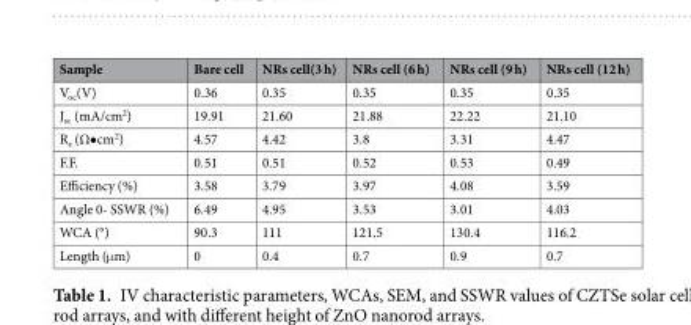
<table><thead><tr><td>Sample</td><td>Bare cell</td><td>NRs cell(3 h)</td><td>NRs cell (6 h)</td><td>NRs cell (9 h)</td><td>NRs cell (12 h)</td></tr></thead><tbody><tr><td>V<sub>oc</sub>(V)</td><td>0.36</td><td>0.35</td><td>0.35</td><td>0.35</td><td>0.35</td></tr><tr><td>J<sub>sc</sub> (mA/cm<sup>2</sup>)</td><td>19.91</td><td>21.60</td><td>21.88</td><td>22.22</td><td>21.10</td></tr><tr><td>R<sub>s</sub> (Ω•cm<sup>2</sup>)</td><td>4.57</td><td>4.42</td><td>3.8</td><td>3.31</td><td>4.47</td></tr><tr><td>F.F.</td><td>0.51</td><td>0.51</td><td>0.52</td><td>0.53</td><td>0.49</td></tr><tr><td>Efficiency (%)</td><td>3.58</td><td>3.79</td><td>3.97</td><td>4.08</td><td>3.59</td></tr><tr><td>Angle 0- SSWR (%)</td><td>6.49</td><td>4.95</td><td>3.53</td><td>3.01</td><td>4.03</td></tr><tr><td>WCA (°)</td><td>90.3</td><td>111</td><td>121.5</td><td>130.4</td><td>116.2</td></tr><tr><td>Length (μm)</td><td>0</td><td>0.4</td><td>0.7</td><td>0.9</td><td>0.7</td></tr></tbody></table>